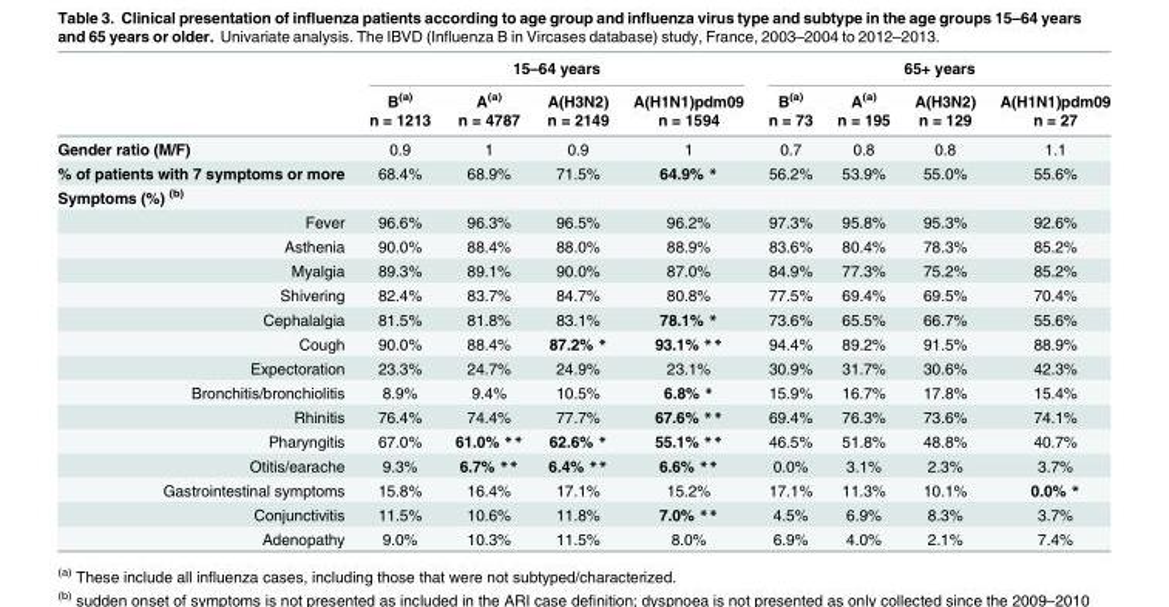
<table><thead><tr><td rowspan="3"></td><td colspan="4">15–64 years</td><td colspan="4">65+ years</td></tr><tr><td rowspan="2">B<sup>(a)</sup> n = 1213</td><td rowspan="2">A<sup>(a)</sup> n = 4787</td><td rowspan="2">A(H3N2) n = 2149</td><td rowspan="2">A(H1N1)pdm09 n = 1594</td><td rowspan="2">B<sup>(a)</sup> n = 73</td><td rowspan="2">A<sup>(a)</sup> n = 195</td><td rowspan="2">A(H3N2) n = 129</td><td rowspan="2">A(H1N1)pdm09 n = 27</td></tr><tr></tr></thead><tbody><tr><td>Gender ratio (M/F)</td><td>0.9</td><td>1</td><td>0.9</td><td>1</td><td>0.7</td><td>0.8</td><td>0.8</td><td>1.1</td></tr><tr><td>% of patients with 7 symptoms or more</td><td>68.4%</td><td>68.9%</td><td>71.5%</td><td>64.9% *</td><td>56.2%</td><td>53.9%</td><td>55.0%</td><td>55.6%</td></tr><tr><td colspan="9">Symptoms (%) <sup>(b)</sup></td></tr><tr><td>Fever</td><td>96.6%</td><td>96.3%</td><td>96.5%</td><td>96.2%</td><td>97.3%</td><td>95.8%</td><td>95.3%</td><td>92.6%</td></tr><tr><td>Asthenia</td><td>90.0%</td><td>88.4%</td><td>88.0%</td><td>88.9%</td><td>83.6%</td><td>80.4%</td><td>78.3%</td><td>85.2%</td></tr><tr><td>Myalgia</td><td>89.3%</td><td>89.1%</td><td>90.0%</td><td>87.0%</td><td>84.9%</td><td>77.3%</td><td>75.2%</td><td>85.2%</td></tr><tr><td>Shivering</td><td>82.4%</td><td>83.7%</td><td>84.7%</td><td>80.8%</td><td>77.5%</td><td>69.4%</td><td>69.5%</td><td>70.4%</td></tr><tr><td>Cephalalgia</td><td>81.5%</td><td>81.8%</td><td>83.1%</td><td>78.1% *</td><td>73.6%</td><td>65.5%</td><td>66.7%</td><td>55.6%</td></tr><tr><td>Cough</td><td>90.0%</td><td>88.4%</td><td>87.2% *</td><td>93.1% **</td><td>94.4%</td><td>89.2%</td><td>91.5%</td><td>88.9%</td></tr><tr><td>Expectoration</td><td>23.3%</td><td>24.7%</td><td>24.9%</td><td>23.1%</td><td>30.9%</td><td>31.7%</td><td>30.6%</td><td>42.3%</td></tr><tr><td>Bronchitis/bronchiolitis</td><td>8.9%</td><td>9.4%</td><td>10.5%</td><td>6.8% *</td><td>15.9%</td><td>16.7%</td><td>17.8%</td><td>15.4%</td></tr><tr><td>Rhinitis</td><td>76.4%</td><td>74.4%</td><td>77.7%</td><td>67.6% **</td><td>69.4%</td><td>76.3%</td><td>73.6%</td><td>74.1%</td></tr><tr><td>Pharyngitis</td><td>67.0%</td><td>61.0% **</td><td>62.6% *</td><td>55.1% **</td><td>46.5%</td><td>51.8%</td><td>48.8%</td><td>40.7%</td></tr><tr><td>Otitis/earache</td><td>9.3%</td><td>6.7% **</td><td>6.4% **</td><td>6.6% **</td><td>0.0%</td><td>3.1%</td><td>2.3%</td><td>3.7%</td></tr><tr><td>Gastrointestinal symptoms</td><td>15.8%</td><td>16.4%</td><td>17.1%</td><td>15.2%</td><td>17.1%</td><td>11.3%</td><td>10.1%</td><td>0.0% *</td></tr><tr><td>Conjunctivitis</td><td>11.5%</td><td>10.6%</td><td>11.8%</td><td>7.0% **</td><td>4.5%</td><td>6.9%</td><td>8.3%</td><td>3.7%</td></tr><tr><td>Adenopathy</td><td>9.0%</td><td>10.3%</td><td>11.5%</td><td>8.0%</td><td>6.9%</td><td>4.0%</td><td>2.1%</td><td>7.4%</td></tr></tbody></table>